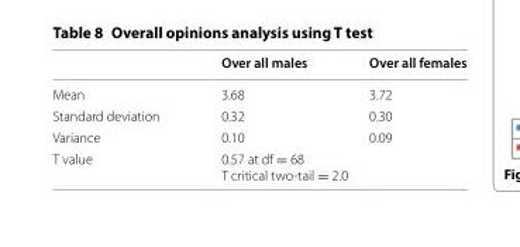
<table><thead><tr><td></td><td>Over all males</td><td>Over all females</td></tr></thead><tbody><tr><td>Mean</td><td>3.68</td><td>3.72</td></tr><tr><td>Standard deviation</td><td>0.32</td><td>0.30</td></tr><tr><td>Variance</td><td>0.10</td><td>0.09</td></tr><tr><td>T value</td><td colspan="2">0.57 at df = 68 T critical two-tail = 2.0</td></tr></tbody></table>